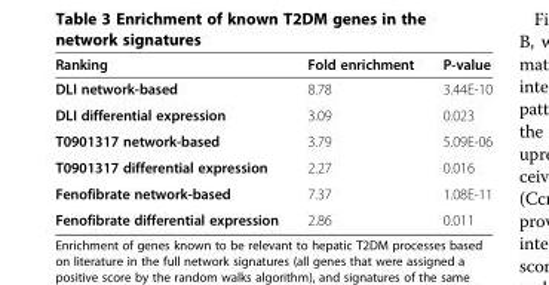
<table><thead><tr><td>Ranking</td><td>Fold enrichment</td><td>P-value</td></tr></thead><tbody><tr><td>DLI network-based</td><td>8.78</td><td>3.44E-10</td></tr><tr><td>DLI differential expression</td><td>3.09</td><td>0.023</td></tr><tr><td>T0901317 network-based</td><td>3.79</td><td>5.09E-06</td></tr><tr><td>T0901317 differential expression</td><td>2.27</td><td>0.016</td></tr><tr><td>Fenofibrate network-based</td><td>7.37</td><td>1.08E-11</td></tr><tr><td>Fenofibrate differential expression</td><td>2.86</td><td>0.011</td></tr></tbody></table>